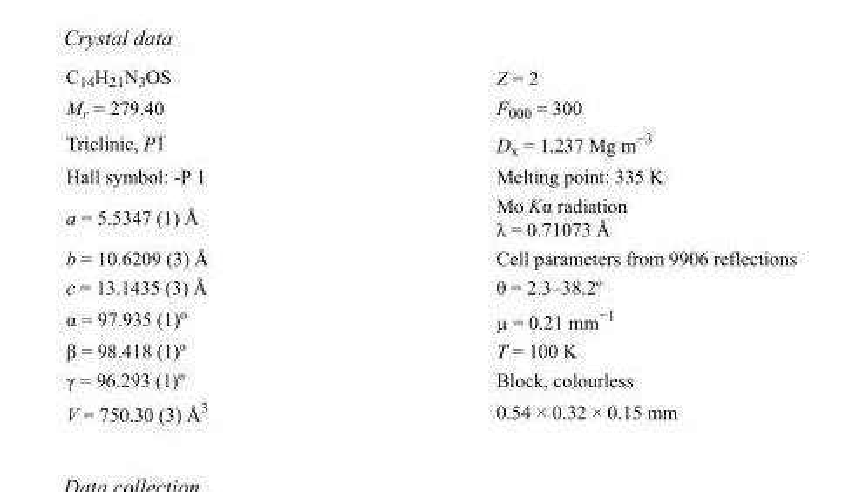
<table><tbody><tr><td>C<sub>14</sub>H<sub>21</sub>N<sub>3</sub>OS</td><td>Z = 2</td></tr><tr><td>M<sub>r</sub> = 279.40</td><td>F000 = 300</td></tr><tr><td>Triclinic, P1</td><td>D<sub>x</sub> = 1.237 Mg m<sup>−3</sup></td></tr><tr><td>Hall symbol: -P 1</td><td>Melting point: 335 K</td></tr><tr><td>a = 5.5347 (1) Å</td><td>Mo Kα radiation λ = 0.71073 Å</td></tr><tr><td>b = 10.6209 (3) Å</td><td>Cell parameters from 9906 reflections</td></tr><tr><td>c = 13.1435 (3) Å</td><td>θ = 2.3–38.2º</td></tr><tr><td>α = 97.935 (1)º</td><td>µ = 0.21 mm<sup>−1</sup></td></tr><tr><td>β = 98.418 (1)º</td><td>T = 100 K</td></tr><tr><td>γ = 96.293 (1)º</td><td>Block, colourless</td></tr><tr><td>V = 750.30 (3) Å<sup>3</sup></td><td>0.54 × 0.32 × 0.15 mm</td></tr></tbody></table>